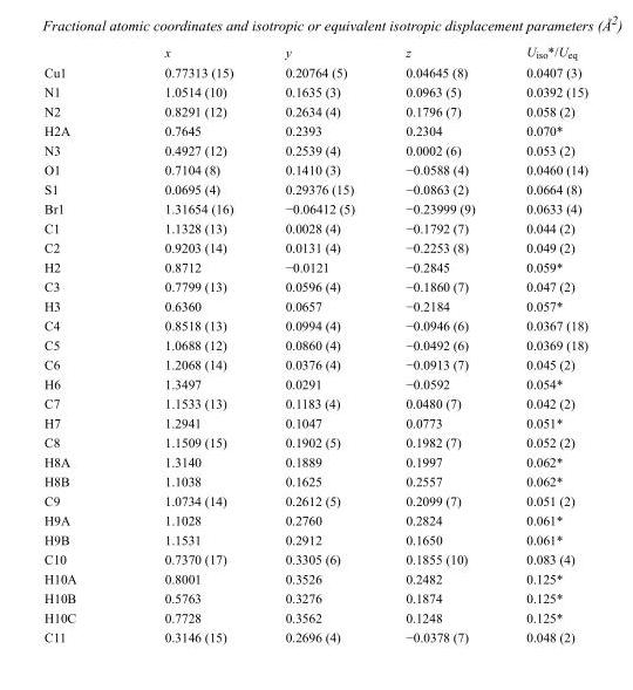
<table><thead><tr><td></td><td>x</td><td>y</td><td>z</td><td>U<sub>iso</sub>*/U<sub>eq</sub></td></tr></thead><tbody><tr><td>Cu1</td><td>0.77313 (15)</td><td>0.20764 (5)</td><td>0.04645 (8)</td><td>0.0407 (3)</td></tr><tr><td>N1</td><td>1.0514 (10)</td><td>0.1635 (3)</td><td>0.0963 (5)</td><td>0.0392 (15)</td></tr><tr><td>N2</td><td>0.8291 (12)</td><td>0.2634 (4)</td><td>0.1796 (7)</td><td>0.058 (2)</td></tr><tr><td>H2A</td><td>0.7645</td><td>0.2393</td><td>0.2304</td><td>0.070*</td></tr><tr><td>N3</td><td>0.4927 (12)</td><td>0.2539 (4)</td><td>0.0002 (6)</td><td>0.053 (2)</td></tr><tr><td>O1</td><td>0.7104 (8)</td><td>0.1410 (3)</td><td>−0.0588 (4)</td><td>0.0460 (14)</td></tr><tr><td>S1</td><td>0.0695 (4)</td><td>0.29376 (15)</td><td>−0.0863 (2)</td><td>0.0664 (8)</td></tr><tr><td>Br1</td><td>1.31654 (16)</td><td>−0.06412 (5)</td><td>−0.23999 (9)</td><td>0.0633 (4)</td></tr><tr><td>C1</td><td>1.1328 (13)</td><td>0.0028 (4)</td><td>−0.1792 (7)</td><td>0.044 (2)</td></tr><tr><td>C2</td><td>0.9203 (14)</td><td>0.0131 (4)</td><td>−0.2253 (8)</td><td>0.049 (2)</td></tr><tr><td>H2</td><td>0.8712</td><td>−0.0121</td><td>−0.2845</td><td>0.059*</td></tr><tr><td>C3</td><td>0.7799 (13)</td><td>0.0596 (4)</td><td>−0.1860 (7)</td><td>0.047 (2)</td></tr><tr><td>H3</td><td>0.6360</td><td>0.0657</td><td>−0.2184</td><td>0.057*</td></tr><tr><td>C4</td><td>0.8518 (13)</td><td>0.0994 (4)</td><td>−0.0946 (6)</td><td>0.0367 (18)</td></tr><tr><td>C5</td><td>1.0688 (12)</td><td>0.0860 (4)</td><td>−0.0492 (6)</td><td>0.0369 (18)</td></tr><tr><td>C6</td><td>1.2068 (14)</td><td>0.0376 (4)</td><td>−0.0913 (7)</td><td>0.045 (2)</td></tr><tr><td>H6</td><td>1.3497</td><td>0.0291</td><td>−0.0592</td><td>0.054*</td></tr><tr><td>C7</td><td>1.1533 (13)</td><td>0.1183 (4)</td><td>0.0480 (7)</td><td>0.042 (2)</td></tr><tr><td>H7</td><td>1.2941</td><td>0.1047</td><td>0.0773</td><td>0.051*</td></tr><tr><td>C8</td><td>1.1509 (15)</td><td>0.1902 (5)</td><td>0.1982 (7)</td><td>0.052 (2)</td></tr><tr><td>H8A</td><td>1.3140</td><td>0.1889</td><td>0.1997</td><td>0.062*</td></tr><tr><td>H8B</td><td>1.1038</td><td>0.1625</td><td>0.2557</td><td>0.062*</td></tr><tr><td>C9</td><td>1.0734 (14)</td><td>0.2612 (5)</td><td>0.2099 (7)</td><td>0.051 (2)</td></tr><tr><td>H9A</td><td>1.1028</td><td>0.2760</td><td>0.2824</td><td>0.061*</td></tr><tr><td>H9B</td><td>1.1531</td><td>0.2912</td><td>0.1650</td><td>0.061*</td></tr><tr><td>C10</td><td>0.7370 (17)</td><td>0.3305 (6)</td><td>0.1855 (10)</td><td>0.083 (4)</td></tr><tr><td>H10A</td><td>0.8001</td><td>0.3526</td><td>0.2482</td><td>0.125*</td></tr><tr><td>H10B</td><td>0.5763</td><td>0.3276</td><td>0.1874</td><td>0.125*</td></tr><tr><td>H10C</td><td>0.7728</td><td>0.3562</td><td>0.1248</td><td>0.125*</td></tr><tr><td>C11</td><td>0.3146 (15)</td><td>0.2696 (4)</td><td>−0.0378 (7)</td><td>0.048 (2)</td></tr></tbody></table>